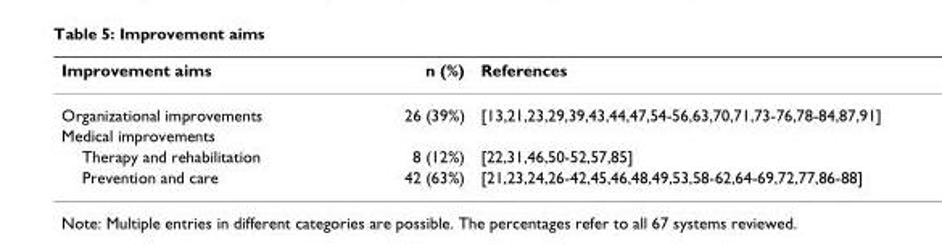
<table><thead><tr><td>Improvement aims</td><td>n (%)</td><td>References</td></tr></thead><tbody><tr><td>Organizational improvements</td><td>26 (39%)</td><td>[13,21,23,29,39,43,44,47,54-56,63,70,71,73-76,78-84,87,91]</td></tr><tr><td colspan="3">Medical improvements</td></tr><tr><td>Therapy and rehabilitation</td><td>8 (12%)</td><td>[22,31,46,50-52,57,85]</td></tr><tr><td>Prevention and care</td><td>42 (63%)</td><td>[21,23,24,26-42,45,46,48,49,53,58-62,64-69,72,77,86-88]</td></tr></tbody></table>